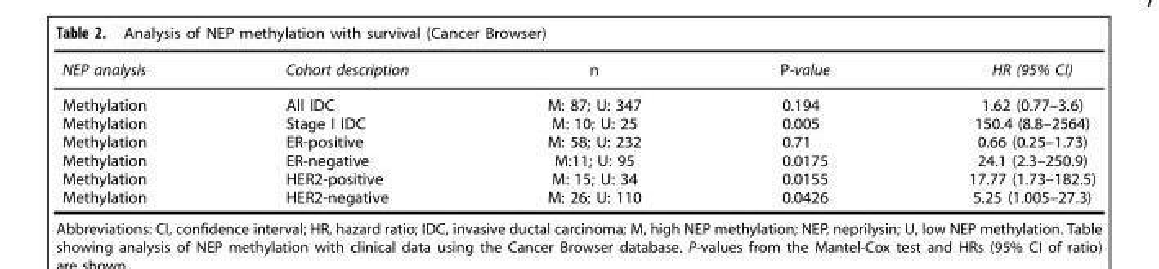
<table><thead><tr><td>NEP analysis</td><td>Cohort description</td><td>n</td><td>P-value</td><td>HR (95% CI)</td></tr></thead><tbody><tr><td>Methylation</td><td>All IDC</td><td>M: 87; U: 347</td><td>0.194</td><td>1.62 (0.77–3.6)</td></tr><tr><td>Methylation</td><td>Stage I IDC</td><td>M: 10; U: 25</td><td>0.005</td><td>150.4 (8.8–2564)</td></tr><tr><td>Methylation</td><td>ER-positive</td><td>M: 58; U: 232</td><td>0.71</td><td>0.66 (0.25–1.73)</td></tr><tr><td>Methylation</td><td>ER-negative</td><td>M:11; U: 95</td><td>0.0175</td><td>24.1 (2.3–250.9)</td></tr><tr><td>Methylation</td><td>HER2-positive</td><td>M: 15; U: 34</td><td>0.0155</td><td>17.77 (1.73–182.5)</td></tr><tr><td>Methylation</td><td>HER2-negative</td><td>M: 26; U: 110</td><td>0.0426</td><td>5.25 (1.005–27.3)</td></tr></tbody></table>